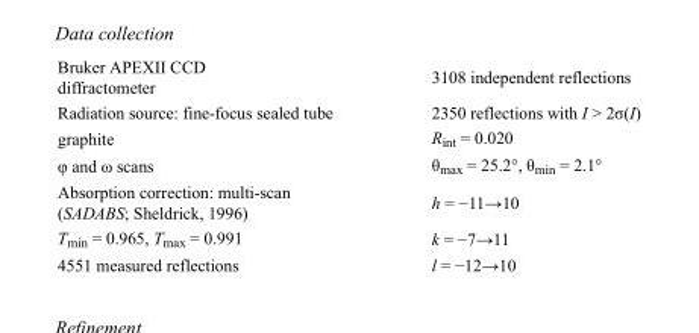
<table><tbody><tr><td>Bruker APEXII CCD diffractometer</td><td>3108 independent reflections</td></tr><tr><td>Radiation source: fine-focus sealed tube</td><td>2350 reflections with I &gt; 2σ(I)</td></tr><tr><td>graphite</td><td>R<sub>int</sub> = 0.020</td></tr><tr><td>φ and ω scans</td><td>θ<sub>max</sub> = 25.2°, θ<sub>min</sub> = 2.1°</td></tr><tr><td>Absorption correction: multi-scan (SADABS; Sheldrick, 1996)</td><td>h = −11→10</td></tr><tr><td>T<sub>min</sub> = 0.965, T<sub>max</sub> = 0.991</td><td>k = −7→11</td></tr><tr><td>4551 measured reflections</td><td>l = −12→10</td></tr></tbody></table>